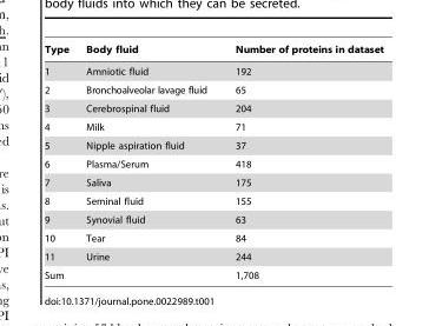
<table><thead><tr><td>Type</td><td>Body fluid</td><td>Number of proteins in dataset</td></tr></thead><tbody><tr><td>1</td><td>Amniotic fluid</td><td>192</td></tr><tr><td>2</td><td>Bronchoalveolar lavage fluid</td><td>65</td></tr><tr><td>3</td><td>Cerebrospinal fluid</td><td>204</td></tr><tr><td>4</td><td>Milk</td><td>71</td></tr><tr><td>5</td><td>Nipple aspiration fluid</td><td>37</td></tr><tr><td>6</td><td>Plasma/Serum</td><td>418</td></tr><tr><td>7</td><td>Saliva</td><td>175</td></tr><tr><td>8</td><td>Seminal fluid</td><td>155</td></tr><tr><td>9</td><td>Synovial fluid</td><td>63</td></tr><tr><td>10</td><td>Tear</td><td>84</td></tr><tr><td>11</td><td>Urine</td><td>244</td></tr><tr><td colspan="2">Sum</td><td>1,708</td></tr></tbody></table>